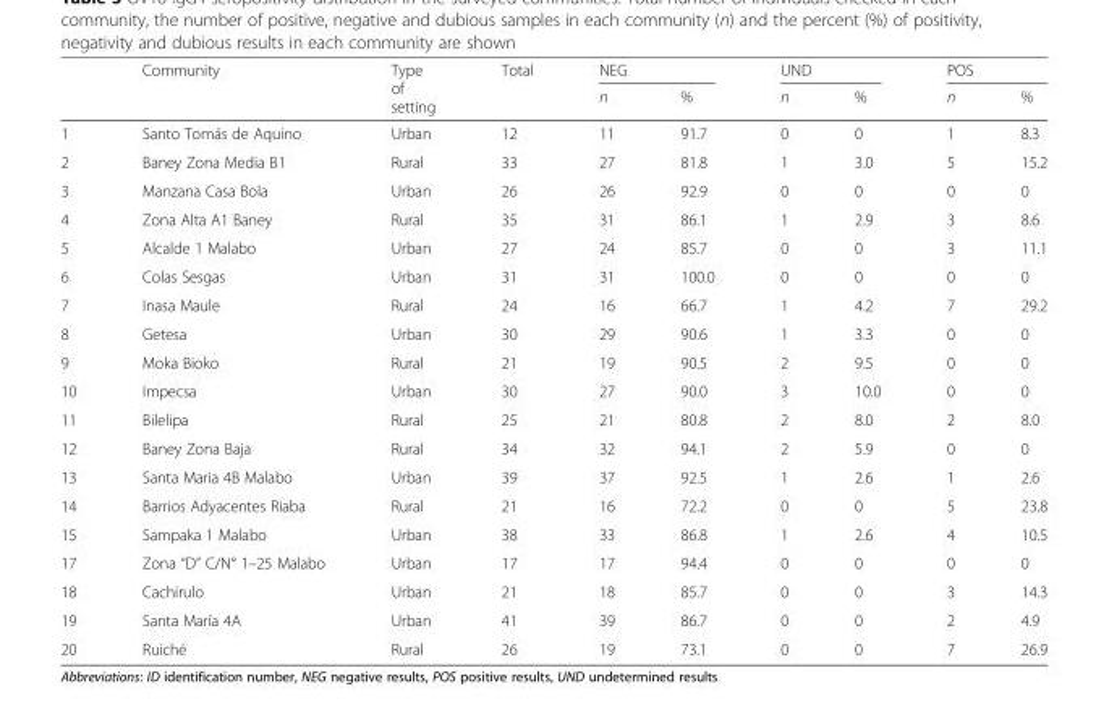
<table><thead><tr><td rowspan="2"></td><td rowspan="2">Community</td><td rowspan="2">Type of setting</td><td rowspan="2">Total</td><td colspan="2">NEG</td><td colspan="2">UND</td><td colspan="2">POS</td></tr><tr><td>n</td><td>%</td><td>n</td><td>%</td><td>n</td><td>%</td></tr></thead><tbody><tr><td>1</td><td>Santo Tomás de Aquino</td><td>Urban</td><td>12</td><td>11</td><td>91.7</td><td>0</td><td>0</td><td>1</td><td>8.3</td></tr><tr><td>2</td><td>Baney Zona Media B1</td><td>Rural</td><td>33</td><td>27</td><td>81.8</td><td>1</td><td>3.0</td><td>5</td><td>15.2</td></tr><tr><td>3</td><td>Manzana Casa Bola</td><td>Urban</td><td>26</td><td>26</td><td>92.9</td><td>0</td><td>0</td><td>0</td><td>0</td></tr><tr><td>4</td><td>Zona Alta A1 Baney</td><td>Rural</td><td>35</td><td>31</td><td>86.1</td><td>1</td><td>2.9</td><td>3</td><td>8.6</td></tr><tr><td>5</td><td>Alcalde 1 Malabo</td><td>Urban</td><td>27</td><td>24</td><td>85.7</td><td>0</td><td>0</td><td>3</td><td>11.1</td></tr><tr><td>6</td><td>Colas Sesgas</td><td>Urban</td><td>31</td><td>31</td><td>100.0</td><td>0</td><td>0</td><td>0</td><td>0</td></tr><tr><td>7</td><td>Inasa Maule</td><td>Rural</td><td>24</td><td>16</td><td>66.7</td><td>1</td><td>4.2</td><td>7</td><td>29.2</td></tr><tr><td>8</td><td>Getesa</td><td>Urban</td><td>30</td><td>29</td><td>90.6</td><td>1</td><td>3.3</td><td>0</td><td>0</td></tr><tr><td>9</td><td>Moka Bioko</td><td>Rural</td><td>21</td><td>19</td><td>90.5</td><td>2</td><td>9.5</td><td>0</td><td>0</td></tr><tr><td>10</td><td>Impecsa</td><td>Urban</td><td>30</td><td>27</td><td>90.0</td><td>3</td><td>10.0</td><td>0</td><td>0</td></tr><tr><td>11</td><td>Bilelipa</td><td>Rural</td><td>25</td><td>21</td><td>80.8</td><td>2</td><td>8.0</td><td>2</td><td>8.0</td></tr><tr><td>12</td><td>Baney Zona Baja</td><td>Rural</td><td>34</td><td>32</td><td>94.1</td><td>2</td><td>5.9</td><td>0</td><td>0</td></tr><tr><td>13</td><td>Santa Maria 4B Malabo</td><td>Urban</td><td>39</td><td>37</td><td>92.5</td><td>1</td><td>2.6</td><td>1</td><td>2.6</td></tr><tr><td>14</td><td>Barrios Adyacentes Riaba</td><td>Rural</td><td>21</td><td>16</td><td>72.2</td><td>0</td><td>0</td><td>5</td><td>23.8</td></tr><tr><td>15</td><td>Sampaka 1 Malabo</td><td>Urban</td><td>38</td><td>33</td><td>86.8</td><td>1</td><td>2.6</td><td>4</td><td>10.5</td></tr><tr><td>17</td><td>Zona “D” C/N° 1–25 Malabo</td><td>Urban</td><td>17</td><td>17</td><td>94.4</td><td>0</td><td>0</td><td>0</td><td>0</td></tr><tr><td>18</td><td>Cachirulo</td><td>Urban</td><td>21</td><td>18</td><td>85.7</td><td>0</td><td>0</td><td>3</td><td>14.3</td></tr><tr><td>19</td><td>Santa María 4A</td><td>Urban</td><td>41</td><td>39</td><td>86.7</td><td>0</td><td>0</td><td>2</td><td>4.9</td></tr><tr><td>20</td><td>Ruiché</td><td>Rural</td><td>26</td><td>19</td><td>73.1</td><td>0</td><td>0</td><td>7</td><td>26.9</td></tr></tbody></table>